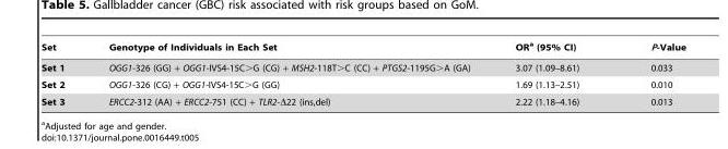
<table><thead><tr><td>Set</td><td>Genotype of Individuals in Each Set</td><td>OR<sup>a</sup> (95% CI)</td><td>P-Value</td></tr></thead><tbody><tr><td>Set 1</td><td>OGG1-326 (GG) + OGG1-IVS4-15C&gt;G (CG) + MSH2-118T&gt;C (CC) + PTGS2-1195G&gt;A (GA)</td><td>3.07 (1.09–8.61)</td><td>0.033</td></tr><tr><td>Set 2</td><td>OGG1-326 (CG) + OGG1-IVS4-15C&gt;G (GG)</td><td>1.69 (1.13–2.51)</td><td>0.010</td></tr><tr><td>Set 3</td><td>ERCC2-312 (AA) + ERCC2-751 (CC) + TLR2-Δ22 (ins,del)</td><td>2.22 (1.18–4.16)</td><td>0.013</td></tr></tbody></table>